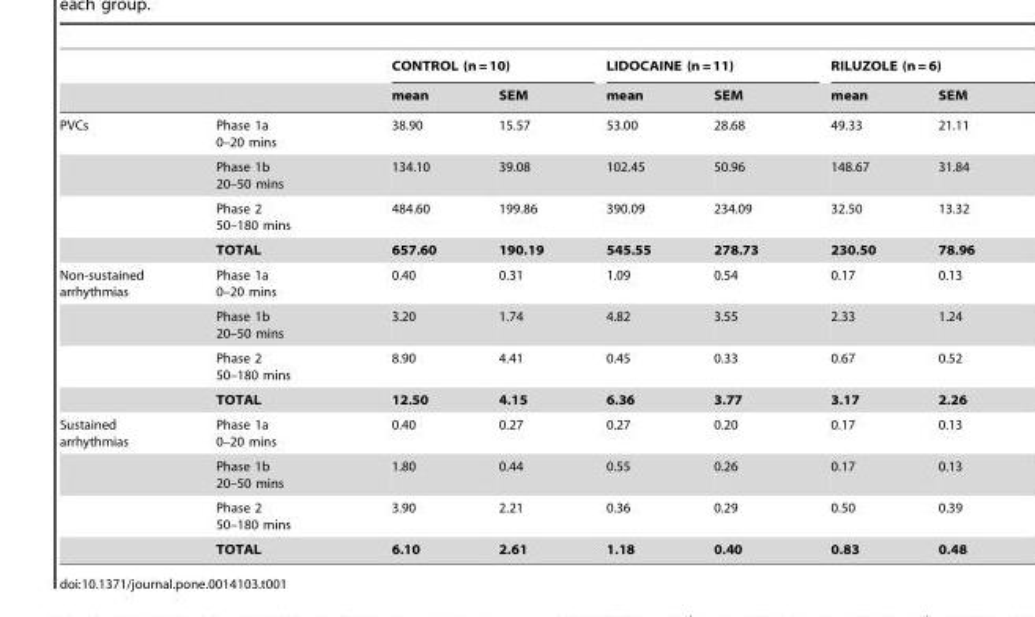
<table><thead><tr><td rowspan="2"></td><td rowspan="2"></td><td colspan="2">CONTROL (n = 10)</td><td colspan="2">LIDOCAINE (n = 11)</td><td colspan="2">RILUZOLE (n = 6)</td></tr><tr><td>mean</td><td>SEM</td><td>mean</td><td>SEM</td><td>mean</td><td>SEM</td></tr></thead><tbody><tr><td rowspan="4">PVCs</td><td>Phase 1a 0–20 mins</td><td>38.90</td><td>15.57</td><td>53.00</td><td>28.68</td><td>49.33</td><td>21.11</td></tr><tr><td>Phase 1b 20–50 mins</td><td>134.10</td><td>39.08</td><td>102.45</td><td>50.96</td><td>148.67</td><td>31.84</td></tr><tr><td>Phase 2 50–180 mins</td><td>484.60</td><td>199.86</td><td>390.09</td><td>234.09</td><td>32.50</td><td>13.32</td></tr><tr><td>TOTAL</td><td>657.60</td><td>190.19</td><td>545.55</td><td>278.73</td><td>230.50</td><td>78.96</td></tr><tr><td rowspan="4">Non-sustained arrhythmias</td><td>Phase 1a 0–20 mins</td><td>0.40</td><td>0.31</td><td>1.09</td><td>0.54</td><td>0.17</td><td>0.13</td></tr><tr><td>Phase 1b 20–50 mins</td><td>3.20</td><td>1.74</td><td>4.82</td><td>3.55</td><td>2.33</td><td>1.24</td></tr><tr><td>Phase 2 50–180 mins</td><td>8.90</td><td>4.41</td><td>0.45</td><td>0.33</td><td>0.67</td><td>0.52</td></tr><tr><td>TOTAL</td><td>12.50</td><td>4.15</td><td>6.36</td><td>3.77</td><td>3.17</td><td>2.26</td></tr><tr><td rowspan="4">Sustained arrhythmias</td><td>Phase 1a 0–20 mins</td><td>0.40</td><td>0.27</td><td>0.27</td><td>0.20</td><td>0.17</td><td>0.13</td></tr><tr><td>Phase 1b 20–50 mins</td><td>1.80</td><td>0.44</td><td>0.55</td><td>0.26</td><td>0.17</td><td>0.13</td></tr><tr><td>Phase 2 50–180 mins</td><td>3.90</td><td>2.21</td><td>0.36</td><td>0.29</td><td>0.50</td><td>0.39</td></tr><tr><td>TOTAL</td><td>6.10</td><td>2.61</td><td>1.18</td><td>0.40</td><td>0.83</td><td>0.48</td></tr></tbody></table>